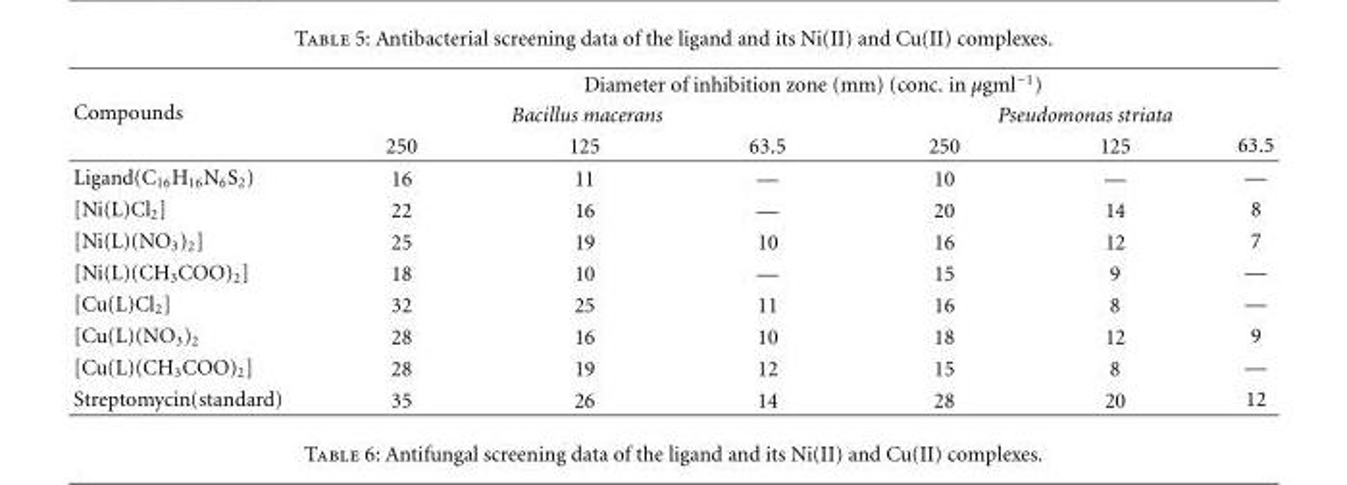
<table><thead><tr><td rowspan="3">Compounds</td><td colspan="6">Diameter of inhibition zone (mm) (conc. in μgml<sup>−1</sup>)</td></tr><tr><td colspan="3">Bacillus macerans</td><td colspan="3">Pseudomonas striata</td></tr><tr><td>250</td><td>125</td><td>63.5</td><td>250</td><td>125</td><td>63.5</td></tr></thead><tbody><tr><td>Ligand(C<sub>16</sub>H<sub>16</sub>N<sub>6</sub>S<sub>2</sub>)</td><td>16</td><td>11</td><td>—</td><td>10</td><td>—</td><td>—</td></tr><tr><td>[Ni(L)Cl<sub>2</sub>]</td><td>22</td><td>16</td><td>—</td><td>20</td><td>14</td><td>8</td></tr><tr><td>[Ni(L)(NO<sub>3</sub>)<sub>2</sub>]</td><td>25</td><td>19</td><td>10</td><td>16</td><td>12</td><td>7</td></tr><tr><td>[Ni(L)(CH<sub>3</sub>COO)<sub>2</sub>]</td><td>18</td><td>10</td><td>—</td><td>15</td><td>9</td><td>—</td></tr><tr><td>[Cu(L)Cl<sub>2</sub>]</td><td>32</td><td>25</td><td>11</td><td>16</td><td>8</td><td>—</td></tr><tr><td>[Cu(L)(NO3)2</td><td>28</td><td>16</td><td>10</td><td>18</td><td>12</td><td>9</td></tr><tr><td>[Cu(L)(CH<sub>3</sub>COO)<sub>2</sub>]</td><td>28</td><td>19</td><td>12</td><td>15</td><td>8</td><td>—</td></tr><tr><td>Streptomycin(standard)</td><td>35</td><td>26</td><td>14</td><td>28</td><td>20</td><td>12</td></tr></tbody></table>